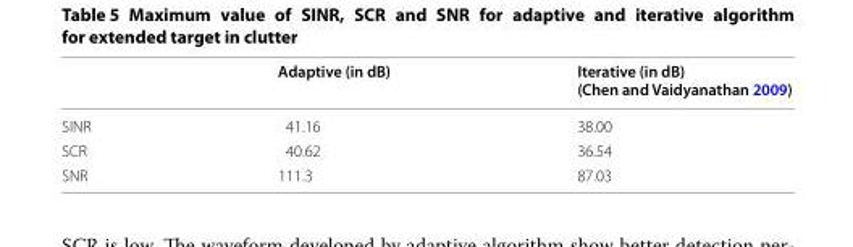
<table><thead><tr><td></td><td>Adaptive (in dB)</td><td>Iterative (in dB) (Chen and Vaidyanathan 2009)</td></tr></thead><tbody><tr><td>SINR</td><td>41.16</td><td>38.00</td></tr><tr><td>SCR</td><td>40.62</td><td>36.54</td></tr><tr><td>SNR</td><td>111.3</td><td>87.03</td></tr></tbody></table>